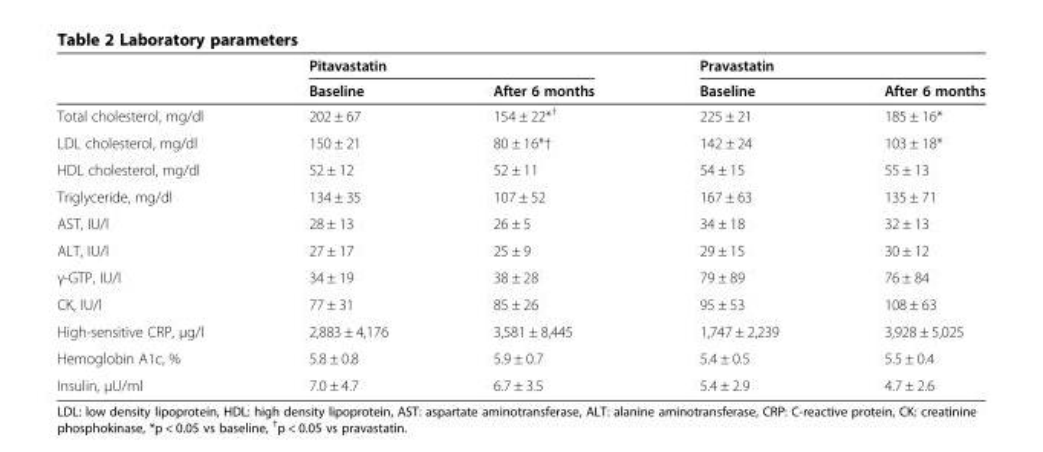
<table><thead><tr><td rowspan="2"></td><td colspan="2">Pitavastatin</td><td colspan="2">Pravastatin</td></tr><tr><td>Baseline</td><td>After 6 months</td><td>Baseline</td><td>After 6 months</td></tr></thead><tbody><tr><td>Total cholesterol, mg/dl</td><td>202 ± 67</td><td>154 ± 22*<sup>†</sup></td><td>225 ± 21</td><td>185 ± 16*</td></tr><tr><td>LDL cholesterol, mg/dl</td><td>150 ± 21</td><td>80 ± 16*†</td><td>142 ± 24</td><td>103 ± 18*</td></tr><tr><td>HDL cholesterol, mg/dl</td><td>52 ± 12</td><td>52 ± 11</td><td>54 ± 15</td><td>55 ± 13</td></tr><tr><td>Triglyceride, mg/dl</td><td>134 ± 35</td><td>107 ± 52</td><td>167 ± 63</td><td>135 ± 71</td></tr><tr><td>AST, IU/l</td><td>28 ± 13</td><td>26 ± 5</td><td>34 ± 18</td><td>32 ± 13</td></tr><tr><td>ALT, IU/l</td><td>27 ± 17</td><td>25 ± 9</td><td>29 ± 15</td><td>30 ± 12</td></tr><tr><td>γ-GTP, IU/l</td><td>34 ± 19</td><td>38 ± 28</td><td>79 ± 89</td><td>76 ± 84</td></tr><tr><td>CK, IU/l</td><td>77 ± 31</td><td>85 ± 26</td><td>95 ± 53</td><td>108 ± 63</td></tr><tr><td>High-sensitive CRP, μg/l</td><td>2,883 ± 4,176</td><td>3,581 ± 8,445</td><td>1,747 ± 2,239</td><td>3,928 ± 5,025</td></tr><tr><td>Hemoglobin A1c, %</td><td>5.8 ± 0.8</td><td>5.9 ± 0.7</td><td>5.4 ± 0.5</td><td>5.5 ± 0.4</td></tr><tr><td>Insulin, μU/ml</td><td>7.0 ± 4.7</td><td>6.7 ± 3.5</td><td>5.4 ± 2.9</td><td>4.7 ± 2.6</td></tr></tbody></table>